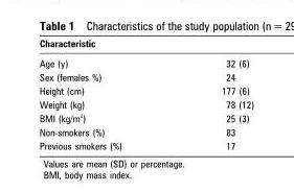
<table><thead><tr><td>Characteristic</td><td></td></tr></thead><tbody><tr><td>Age (y)</td><td>32 (6)</td></tr><tr><td>Sex (females %)</td><td>24</td></tr><tr><td>Height (cm)</td><td>177 (6)</td></tr><tr><td>Weight (kg)</td><td>78 (12)</td></tr><tr><td>BMI (kg/m <sup>2</sup>)</td><td>25 (3)</td></tr><tr><td>Non-smokers (%)</td><td>83</td></tr><tr><td>Previous smokers (%)</td><td>17</td></tr></tbody></table>